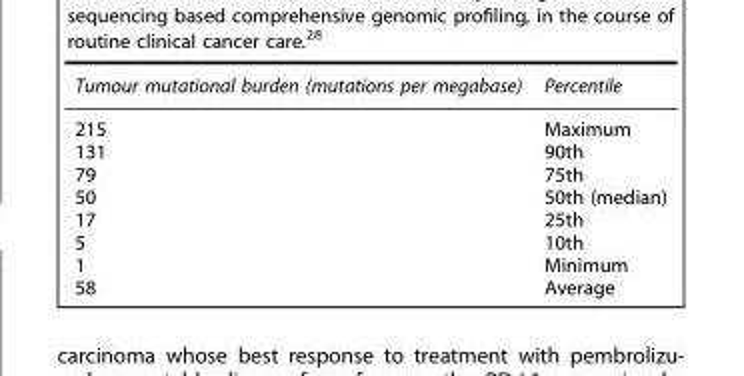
<table><thead><tr><td>Tumour mutational burden (mutations per megabase)</td><td>Percentile</td></tr></thead><tbody><tr><td>215</td><td>Maximum</td></tr><tr><td>131</td><td>90th</td></tr><tr><td>79</td><td>75th</td></tr><tr><td>50</td><td>50th (median)</td></tr><tr><td>17</td><td>25th</td></tr><tr><td>5</td><td>10th</td></tr><tr><td>1</td><td>Minimum</td></tr><tr><td>58</td><td>Average</td></tr></tbody></table>